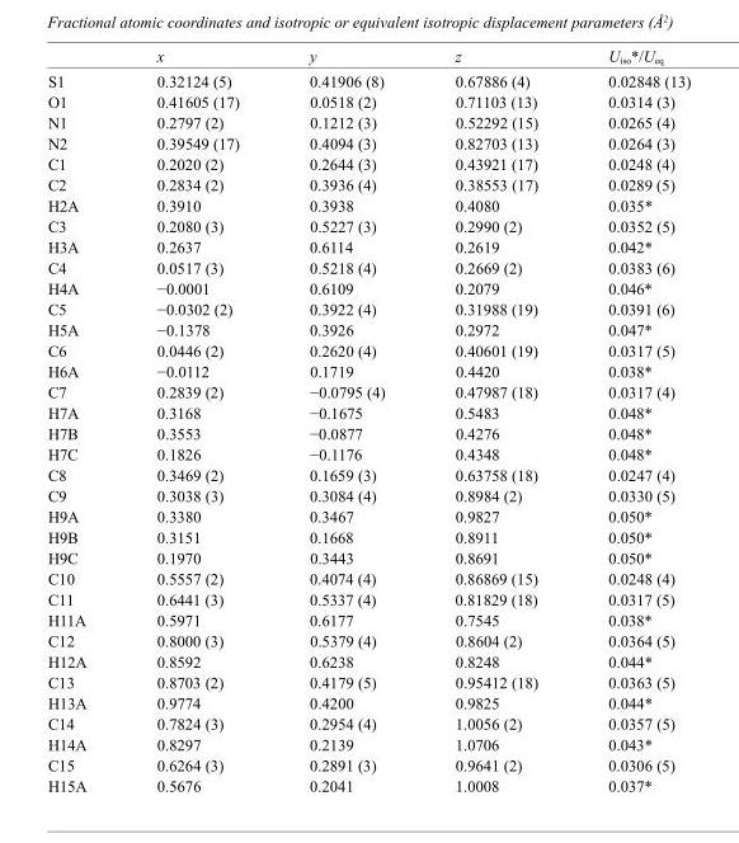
<table><thead><tr><td></td><td>x</td><td>y</td><td>z</td><td>U<sub>iso</sub>*/U<sub>eq</sub></td></tr></thead><tbody><tr><td>S1</td><td>0.32124 (5)</td><td>0.41906 (8)</td><td>0.67886 (4)</td><td>0.02848 (13)</td></tr><tr><td>O1</td><td>0.41605 (17)</td><td>0.0518 (2)</td><td>0.71103 (13)</td><td>0.0314 (3)</td></tr><tr><td>N1</td><td>0.2797 (2)</td><td>0.1212 (3)</td><td>0.52292 (15)</td><td>0.0265 (4)</td></tr><tr><td>N2</td><td>0.39549 (17)</td><td>0.4094 (3)</td><td>0.82703 (13)</td><td>0.0264 (3)</td></tr><tr><td>C1</td><td>0.2020 (2)</td><td>0.2644 (3)</td><td>0.43921 (17)</td><td>0.0248 (4)</td></tr><tr><td>C2</td><td>0.2834 (2)</td><td>0.3936 (4)</td><td>0.38553 (17)</td><td>0.0289 (5)</td></tr><tr><td>H2A</td><td>0.3910</td><td>0.3938</td><td>0.4080</td><td>0.035*</td></tr><tr><td>C3</td><td>0.2080 (3)</td><td>0.5227 (3)</td><td>0.2990 (2)</td><td>0.0352 (5)</td></tr><tr><td>H3A</td><td>0.2637</td><td>0.6114</td><td>0.2619</td><td>0.042*</td></tr><tr><td>C4</td><td>0.0517 (3)</td><td>0.5218 (4)</td><td>0.2669 (2)</td><td>0.0383 (6)</td></tr><tr><td>H4A</td><td>−0.0001</td><td>0.6109</td><td>0.2079</td><td>0.046*</td></tr><tr><td>C5</td><td>−0.0302 (2)</td><td>0.3922 (4)</td><td>0.31988 (19)</td><td>0.0391 (6)</td></tr><tr><td>H5A</td><td>−0.1378</td><td>0.3926</td><td>0.2972</td><td>0.047*</td></tr><tr><td>C6</td><td>0.0446 (2)</td><td>0.2620 (4)</td><td>0.40601 (19)</td><td>0.0317 (5)</td></tr><tr><td>H6A</td><td>−0.0112</td><td>0.1719</td><td>0.4420</td><td>0.038*</td></tr><tr><td>C7</td><td>0.2839 (2)</td><td>−0.0795 (4)</td><td>0.47987 (18)</td><td>0.0317 (4)</td></tr><tr><td>H7A</td><td>0.3168</td><td>−0.1675</td><td>0.5483</td><td>0.048*</td></tr><tr><td>H7B</td><td>0.3553</td><td>−0.0877</td><td>0.4276</td><td>0.048*</td></tr><tr><td>H7C</td><td>0.1826</td><td>−0.1176</td><td>0.4348</td><td>0.048*</td></tr><tr><td>C8</td><td>0.3469 (2)</td><td>0.1659 (3)</td><td>0.63758 (18)</td><td>0.0247 (4)</td></tr><tr><td>C9</td><td>0.3038 (3)</td><td>0.3084 (4)</td><td>0.8984 (2)</td><td>0.0330 (5)</td></tr><tr><td>H9A</td><td>0.3380</td><td>0.3467</td><td>0.9827</td><td>0.050*</td></tr><tr><td>H9B</td><td>0.3151</td><td>0.1668</td><td>0.8911</td><td>0.050*</td></tr><tr><td>H9C</td><td>0.1970</td><td>0.3443</td><td>0.8691</td><td>0.050*</td></tr><tr><td>C10</td><td>0.5557 (2)</td><td>0.4074 (4)</td><td>0.86869 (15)</td><td>0.0248 (4)</td></tr><tr><td>C11</td><td>0.6441 (3)</td><td>0.5337 (4)</td><td>0.81829 (18)</td><td>0.0317 (5)</td></tr><tr><td>H11A</td><td>0.5971</td><td>0.6177</td><td>0.7545</td><td>0.038*</td></tr><tr><td>C12</td><td>0.8000 (3)</td><td>0.5379 (4)</td><td>0.8604 (2)</td><td>0.0364 (5)</td></tr><tr><td>H12A</td><td>0.8592</td><td>0.6238</td><td>0.8248</td><td>0.044*</td></tr><tr><td>C13</td><td>0.8703 (2)</td><td>0.4179 (5)</td><td>0.95412 (18)</td><td>0.0363 (5)</td></tr><tr><td>H13A</td><td>0.9774</td><td>0.4200</td><td>0.9825</td><td>0.044*</td></tr><tr><td>C14</td><td>0.7824 (3)</td><td>0.2954 (4)</td><td>1.0056 (2)</td><td>0.0357 (5)</td></tr><tr><td>H14A</td><td>0.8297</td><td>0.2139</td><td>1.0706</td><td>0.043*</td></tr><tr><td>C15</td><td>0.6264 (3)</td><td>0.2891 (3)</td><td>0.9641 (2)</td><td>0.0306 (5)</td></tr><tr><td>H15A</td><td>0.5676</td><td>0.2041</td><td>1.0008</td><td>0.037*</td></tr></tbody></table>